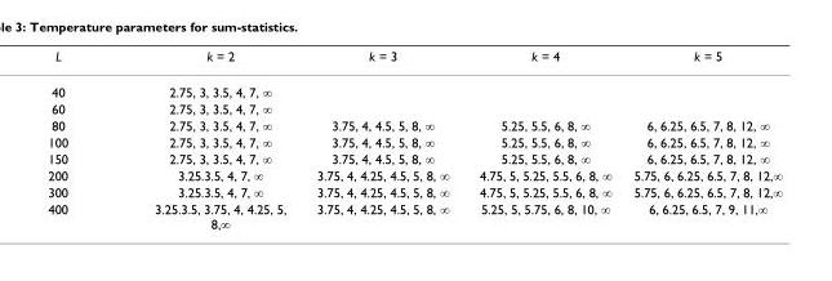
<table><thead><tr><td>L</td><td>k = 2</td><td>k = 3</td><td>k = 4</td><td>k = 5</td></tr></thead><tbody><tr><td>40</td><td>2.75, 3, 3.5, 4, 7, ∞</td><td></td><td></td><td></td></tr><tr><td>60</td><td>2.75, 3, 3.5, 4, 7, ∞</td><td></td><td></td><td></td></tr><tr><td>80</td><td>2.75, 3, 3.5, 4, 7, ∞</td><td>3.75, 4, 4.5, 5, 8, ∞</td><td>5.25, 5.5, 6, 8, ∞</td><td>6, 6.25, 6.5, 7, 8, 12, ∞</td></tr><tr><td>100</td><td>2.75, 3, 3.5, 4, 7, ∞</td><td>3.75, 4, 4.5, 5, 8, ∞</td><td>5.25, 5.5, 6, 8, ∞</td><td>6, 6.25, 6.5, 7, 8, 12, ∞</td></tr><tr><td>150</td><td>2.75, 3, 3.5, 4, 7, ∞</td><td>3.75, 4, 4.5, 5, 8, ∞</td><td>5.25, 5.5, 6, 8, ∞</td><td>6, 6.25, 6.5, 7, 8, 12, ∞</td></tr><tr><td>200</td><td>3.25.3.5, 4, 7, ∞</td><td>3.75, 4, 4.25, 4.5, 5, 8, ∞</td><td>4.75, 5, 5.25, 5.5, 6, 8, ∞</td><td>5.75, 6, 6.25, 6.5, 7, 8, 12,∞</td></tr><tr><td>300</td><td>3.25.3.5, 4, 7, ∞</td><td>3.75, 4, 4.25, 4.5, 5, 8, ∞</td><td>4.75, 5, 5.25, 5.5, 6, 8, ∞</td><td>5.75, 6, 6.25, 6.5, 7, 8, 12,∞</td></tr><tr><td>400</td><td>3.25.3.5, 3.75, 4, 4.25, 5, 8,∞</td><td>3.75, 4, 4.25, 4.5, 5, 8, ∞</td><td>5.25, 5, 5.75, 6, 8, 10, ∞</td><td>6, 6.25, 6.5, 7, 9, 11,∞</td></tr></tbody></table>